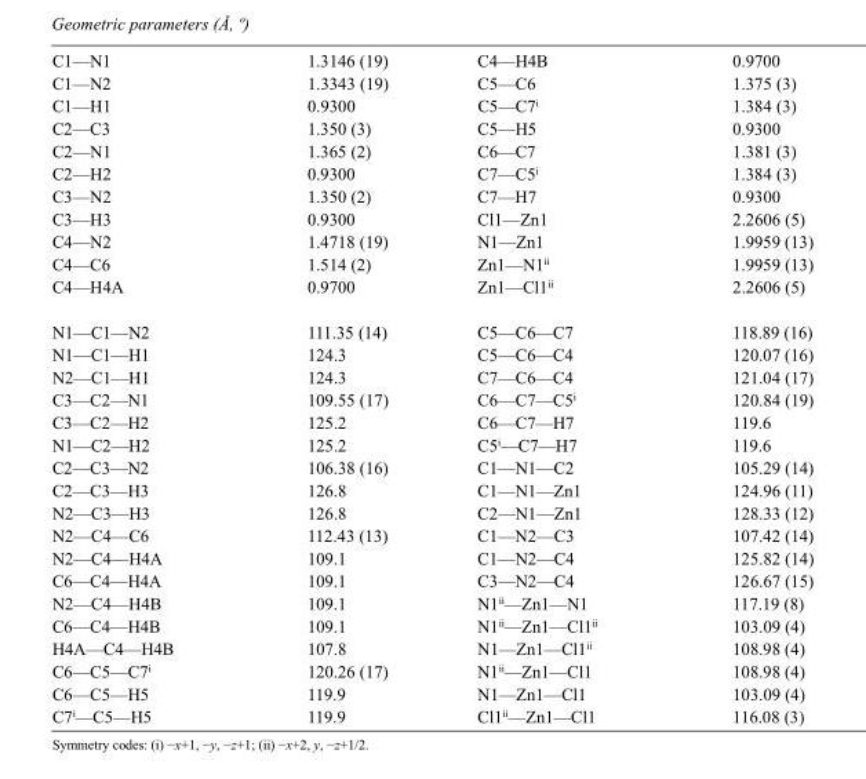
<table><tbody><tr><td>C1—N1</td><td>1.3146 (19)</td><td>C4—H4B</td><td>0.9700</td></tr><tr><td>C1—N2</td><td>1.3343 (19)</td><td>C5—C6</td><td>1.375 (3)</td></tr><tr><td>C1—H1</td><td>0.9300</td><td>C5—C7<sup>i</sup></td><td>1.384 (3)</td></tr><tr><td>C2—C3</td><td>1.350 (3)</td><td>C5—H5</td><td>0.9300</td></tr><tr><td>C2—N1</td><td>1.365 (2)</td><td>C6—C7</td><td>1.381 (3)</td></tr><tr><td>C2—H2</td><td>0.9300</td><td>C7—C5<sup>i</sup></td><td>1.384 (3)</td></tr><tr><td>C3—N2</td><td>1.350 (2)</td><td>C7—H7</td><td>0.9300</td></tr><tr><td>C3—H3</td><td>0.9300</td><td>Cl1—Zn1</td><td>2.2606 (5)</td></tr><tr><td>C4—N2</td><td>1.4718 (19)</td><td>N1—Zn1</td><td>1.9959 (13)</td></tr><tr><td>C4—C6</td><td>1.514 (2)</td><td>Zn1—N1<sup>ii</sup></td><td>1.9959 (13)</td></tr><tr><td>C4—H4A</td><td>0.9700</td><td>Zn1—Cl1<sup>ii</sup></td><td>2.2606 (5)</td></tr><tr><td>N1—C1—N2</td><td>111.35 (14)</td><td>C5—C6—C7</td><td>118.89 (16)</td></tr><tr><td>N1—C1—H1</td><td>124.3</td><td>C5—C6—C4</td><td>120.07 (16)</td></tr><tr><td>N2—C1—H1</td><td>124.3</td><td>C7—C6—C4</td><td>121.04 (17)</td></tr><tr><td>C3—C2—N1</td><td>109.55 (17)</td><td>C6—C7—C5<sup>i</sup></td><td>120.84 (19)</td></tr><tr><td>C3—C2—H2</td><td>125.2</td><td>C6—C7—H7</td><td>119.6</td></tr><tr><td>N1—C2—H2</td><td>125.2</td><td>C5<sup>i</sup>—C7—H7</td><td>119.6</td></tr><tr><td>C2—C3—N2</td><td>106.38 (16)</td><td>C1—N1—C2</td><td>105.29 (14)</td></tr><tr><td>C2—C3—H3</td><td>126.8</td><td>C1—N1—Zn1</td><td>124.96 (11)</td></tr><tr><td>N2—C3—H3</td><td>126.8</td><td>C2—N1—Zn1</td><td>128.33 (12)</td></tr><tr><td>N2—C4—C6</td><td>112.43 (13)</td><td>C1—N2—C3</td><td>107.42 (14)</td></tr><tr><td>N2—C4—H4A</td><td>109.1</td><td>C1—N2—C4</td><td>125.82 (14)</td></tr><tr><td>C6—C4—H4A</td><td>109.1</td><td>C3—N2—C4</td><td>126.67 (15)</td></tr><tr><td>N2—C4—H4B</td><td>109.1</td><td>N1<sup>ii</sup>—Zn1—N1</td><td>117.19 (8)</td></tr><tr><td>C6—C4—H4B</td><td>109.1</td><td>N1<sup>ii</sup>—Zn1—Cl1<sup>ii</sup></td><td>103.09 (4)</td></tr><tr><td>H4A—C4—H4B</td><td>107.8</td><td>N1—Zn1—Cl1<sup>ii</sup></td><td>108.98 (4)</td></tr><tr><td>C6—C5—C7<sup>i</sup></td><td>120.26 (17)</td><td>N1<sup>ii</sup>—Zn1—Cl1</td><td>108.98 (4)</td></tr><tr><td>C6—C5—H5</td><td>119.9</td><td>N1—Zn1—Cl1</td><td>103.09 (4)</td></tr><tr><td>C7<sup>i</sup>—C5—H5</td><td>119.9</td><td>Cl1<sup>ii</sup>—Zn1—Cl1</td><td>116.08 (3)</td></tr></tbody></table>